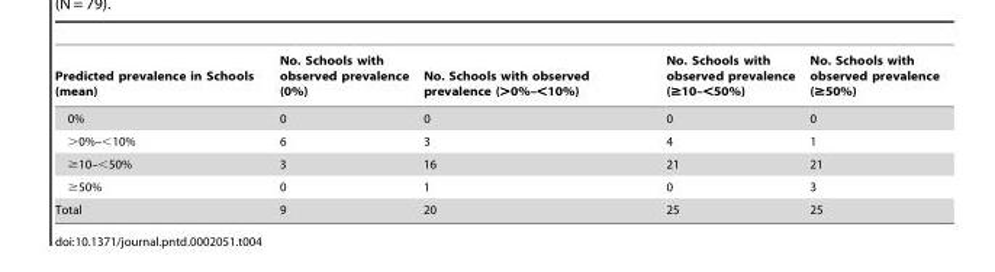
<table><thead><tr><td>Predicted prevalence in Schools (mean)</td><td>No. Schools with observed prevalence (0%)</td><td>No. Schools with observed prevalence (&gt;0%–&lt;10%)</td><td>No. Schools with observed prevalence (≥10–&lt;50%)</td><td>No. Schools with observed prevalence (≥50%)</td></tr></thead><tbody><tr><td>0%</td><td>0</td><td>0</td><td>0</td><td>0</td></tr><tr><td>&gt;0%–&lt;10%</td><td>6</td><td>3</td><td>4</td><td>1</td></tr><tr><td>≥10–&lt;50%</td><td>3</td><td>16</td><td>21</td><td>21</td></tr><tr><td>≥50%</td><td>0</td><td>1</td><td>0</td><td>3</td></tr><tr><td>Total</td><td>9</td><td>20</td><td>25</td><td>25</td></tr></tbody></table>